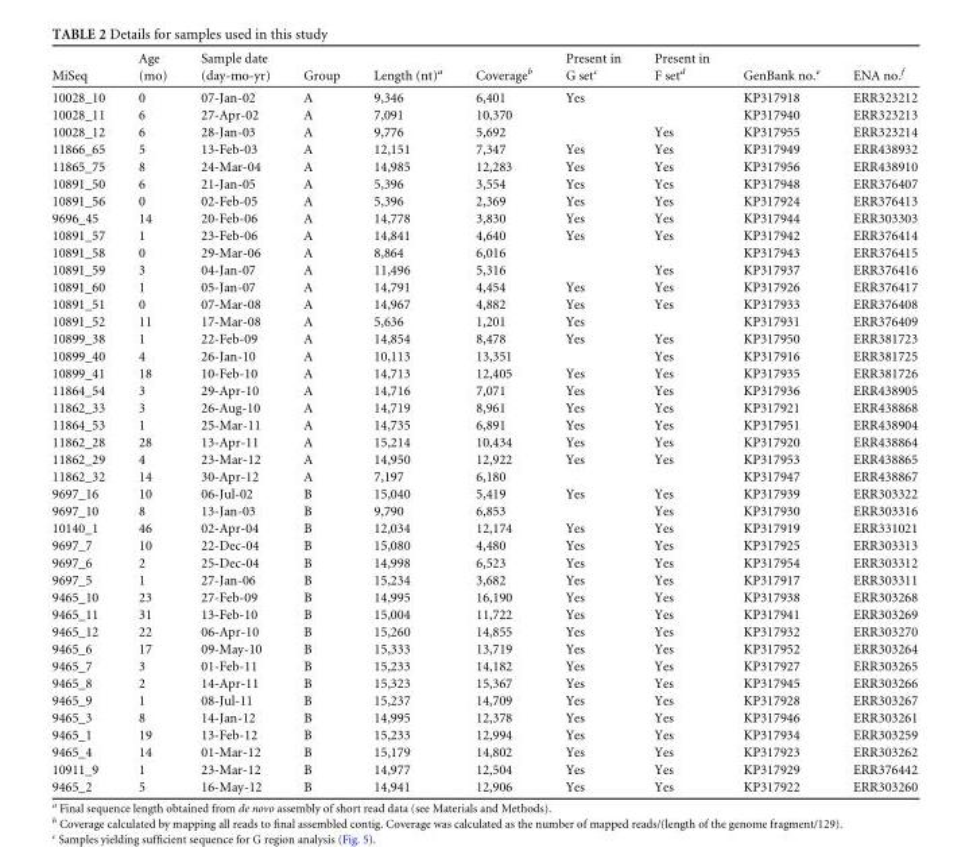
<table><thead><tr><td>MiSeq</td><td>Age (mo)</td><td>Sample date (day-mo-yr)</td><td>Group</td><td>Length (nt)<sup>a</sup></td><td>Coverage<sup>b</sup></td><td>Present in G set<sup>c</sup></td><td>Present in F set<sup>d</sup></td><td>GenBank no.<sup>e</sup></td><td>ENA no.<sup>f</sup></td></tr></thead><tbody><tr><td>10028_10</td><td>0</td><td>07-Jan-02</td><td>A</td><td>9,346</td><td>6,401</td><td>Yes</td><td></td><td>KP317918</td><td>ERR323212</td></tr><tr><td>10028_11</td><td>6</td><td>27-Apr-02</td><td>A</td><td>7,091</td><td>10,370</td><td></td><td></td><td>KP317940</td><td>ERR323213</td></tr><tr><td>10028_12</td><td>6</td><td>28-Jan-03</td><td>A</td><td>9,776</td><td>5,692</td><td></td><td>Yes</td><td>KP317955</td><td>ERR323214</td></tr><tr><td>11866_65</td><td>5</td><td>13-Feb-03</td><td>A</td><td>12,151</td><td>7,347</td><td>Yes</td><td>Yes</td><td>KP317949</td><td>ERR438932</td></tr><tr><td>11865_75</td><td>8</td><td>24-Mar-04</td><td>A</td><td>14,985</td><td>12,283</td><td>Yes</td><td>Yes</td><td>KP317956</td><td>ERR438910</td></tr><tr><td>10891_50</td><td>6</td><td>21-Jan-05</td><td>A</td><td>5,396</td><td>3,554</td><td>Yes</td><td>Yes</td><td>KP317948</td><td>ERR376407</td></tr><tr><td>10891_56</td><td>0</td><td>02-Feb-05</td><td>A</td><td>5,396</td><td>2,369</td><td>Yes</td><td>Yes</td><td>KP317924</td><td>ERR376413</td></tr><tr><td>9696_45</td><td>14</td><td>20-Feb-06</td><td>A</td><td>14,778</td><td>3,830</td><td>Yes</td><td>Yes</td><td>KP317944</td><td>ERR303303</td></tr><tr><td>10891_57</td><td>1</td><td>23-Feb-06</td><td>A</td><td>14,841</td><td>4,640</td><td>Yes</td><td>Yes</td><td>KP317942</td><td>ERR376414</td></tr><tr><td>10891_58</td><td>0</td><td>29-Mar-06</td><td>A</td><td>8,864</td><td>6,016</td><td></td><td></td><td>KP317943</td><td>ERR376415</td></tr><tr><td>10891_59</td><td>3</td><td>04-Jan-07</td><td>A</td><td>11,496</td><td>5,316</td><td></td><td>Yes</td><td>KP317937</td><td>ERR376416</td></tr><tr><td>10891_60</td><td>1</td><td>05-Jan-07</td><td>A</td><td>14,791</td><td>4,454</td><td>Yes</td><td>Yes</td><td>KP317926</td><td>ERR376417</td></tr><tr><td>10891_51</td><td>0</td><td>07-Mar-08</td><td>A</td><td>14,967</td><td>4,882</td><td>Yes</td><td>Yes</td><td>KP317933</td><td>ERR376408</td></tr><tr><td>10891_52</td><td>11</td><td>17-Mar-08</td><td>A</td><td>5,636</td><td>1,201</td><td>Yes</td><td></td><td>KP317931</td><td>ERR376409</td></tr><tr><td>10899_38</td><td>1</td><td>22-Feb-09</td><td>A</td><td>14,854</td><td>8,478</td><td>Yes</td><td>Yes</td><td>KP317950</td><td>ERR381723</td></tr><tr><td>10899_40</td><td>4</td><td>26-Jan-10</td><td>A</td><td>10,113</td><td>13,351</td><td></td><td>Yes</td><td>KP317916</td><td>ERR381725</td></tr><tr><td>10899_41</td><td>18</td><td>10-Feb-10</td><td>A</td><td>14,713</td><td>12,405</td><td>Yes</td><td>Yes</td><td>KP317935</td><td>ERR381726</td></tr><tr><td>11864_54</td><td>3</td><td>29-Apr-10</td><td>A</td><td>14,716</td><td>7,071</td><td>Yes</td><td>Yes</td><td>KP317936</td><td>ERR438905</td></tr><tr><td>11862_33</td><td>3</td><td>26-Aug-10</td><td>A</td><td>14,719</td><td>8,961</td><td>Yes</td><td>Yes</td><td>KP317921</td><td>ERR438868</td></tr><tr><td>11864_53</td><td>1</td><td>25-Mar-11</td><td>A</td><td>14,735</td><td>6,891</td><td>Yes</td><td>Yes</td><td>KP317951</td><td>ERR438904</td></tr><tr><td>11862_28</td><td>28</td><td>13-Apr-11</td><td>A</td><td>15,214</td><td>10,434</td><td>Yes</td><td>Yes</td><td>KP317920</td><td>ERR438864</td></tr><tr><td>11862_29</td><td>4</td><td>23-Mar-12</td><td>A</td><td>14,950</td><td>12,922</td><td>Yes</td><td>Yes</td><td>KP317953</td><td>ERR438865</td></tr><tr><td>11862_32</td><td>14</td><td>30-Apr-12</td><td>A</td><td>7,197</td><td>6,180</td><td></td><td></td><td>KP317947</td><td>ERR438867</td></tr><tr><td>9697_16</td><td>10</td><td>06-Jul-02</td><td>B</td><td>15,040</td><td>5,419</td><td>Yes</td><td>Yes</td><td>KP317939</td><td>ERR303322</td></tr><tr><td>9697_10</td><td>8</td><td>13-Jan-03</td><td>B</td><td>9,790</td><td>6,853</td><td></td><td>Yes</td><td>KP317930</td><td>ERR303316</td></tr><tr><td>10140_1</td><td>46</td><td>02-Apr-04</td><td>B</td><td>12,034</td><td>12,174</td><td>Yes</td><td>Yes</td><td>KP317919</td><td>ERR331021</td></tr><tr><td>9697_7</td><td>10</td><td>22-Dec-04</td><td>B</td><td>15,080</td><td>4,480</td><td>Yes</td><td>Yes</td><td>KP317925</td><td>ERR303313</td></tr><tr><td>9697_6</td><td>2</td><td>25-Dec-04</td><td>B</td><td>14,998</td><td>6,523</td><td>Yes</td><td>Yes</td><td>KP317954</td><td>ERR303312</td></tr><tr><td>9697_5</td><td>1</td><td>27-Jan-06</td><td>B</td><td>15,234</td><td>3,682</td><td>Yes</td><td>Yes</td><td>KP317917</td><td>ERR303311</td></tr><tr><td>9465_10</td><td>23</td><td>27-Feb-09</td><td>B</td><td>14,995</td><td>16,190</td><td>Yes</td><td>Yes</td><td>KP317938</td><td>ERR303268</td></tr><tr><td>9465_11</td><td>31</td><td>13-Feb-10</td><td>B</td><td>15,004</td><td>11,722</td><td>Yes</td><td>Yes</td><td>KP317941</td><td>ERR303269</td></tr><tr><td>9465_12</td><td>22</td><td>06-Apr-10</td><td>B</td><td>15,260</td><td>14,855</td><td>Yes</td><td>Yes</td><td>KP317932</td><td>ERR303270</td></tr><tr><td>9465_6</td><td>17</td><td>09-May-10</td><td>B</td><td>15,333</td><td>13,719</td><td>Yes</td><td>Yes</td><td>KP317952</td><td>ERR303264</td></tr><tr><td>9465_7</td><td>3</td><td>01-Feb-11</td><td>B</td><td>15,233</td><td>14,182</td><td>Yes</td><td>Yes</td><td>KP317927</td><td>ERR303265</td></tr><tr><td>9465_8</td><td>2</td><td>14-Apr-11</td><td>B</td><td>15,323</td><td>15,367</td><td>Yes</td><td>Yes</td><td>KP317945</td><td>ERR303266</td></tr><tr><td>9465_9</td><td>1</td><td>08-Jul-11</td><td>B</td><td>15,237</td><td>14,709</td><td>Yes</td><td>Yes</td><td>KP317928</td><td>ERR303267</td></tr><tr><td>9465_3</td><td>8</td><td>14-Jan-12</td><td>B</td><td>14,995</td><td>12,378</td><td>Yes</td><td>Yes</td><td>KP317946</td><td>ERR303261</td></tr><tr><td>9465_1</td><td>19</td><td>13-Feb-12</td><td>B</td><td>15,233</td><td>12,994</td><td>Yes</td><td>Yes</td><td>KP317934</td><td>ERR303259</td></tr><tr><td>9465_4</td><td>14</td><td>01-Mar-12</td><td>B</td><td>15,179</td><td>14,802</td><td>Yes</td><td>Yes</td><td>KP317923</td><td>ERR303262</td></tr><tr><td>10911_9</td><td>1</td><td>23-Mar-12</td><td>B</td><td>14,977</td><td>12,504</td><td>Yes</td><td>Yes</td><td>KP317929</td><td>ERR376442</td></tr><tr><td>9465_2</td><td>5</td><td>16-May-12</td><td>B</td><td>14,941</td><td>12,906</td><td>Yes</td><td>Yes</td><td>KP317922</td><td>ERR303260</td></tr></tbody></table>